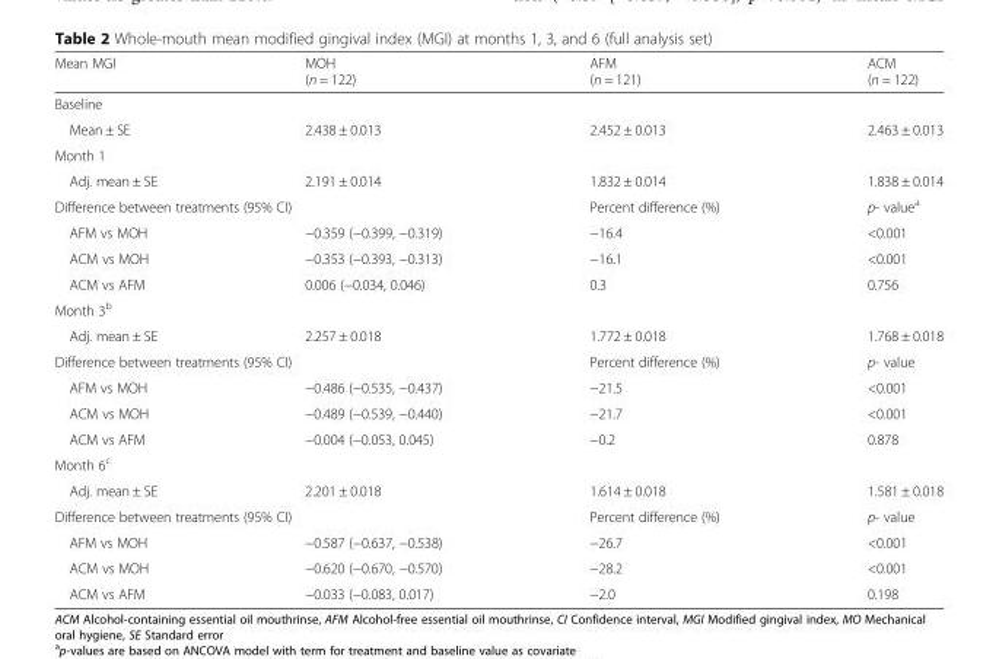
<table><thead><tr><td>Mean MGI</td><td>MOH (n = 122)</td><td>AFM (n = 121)</td><td>ACM (n = 122)</td></tr></thead><tbody><tr><td colspan="4">Baseline</td></tr><tr><td>Mean ± SE</td><td>2.438 ± 0.013</td><td>2.452 ± 0.013</td><td>2.463 ± 0.013</td></tr><tr><td colspan="4">Month 1</td></tr><tr><td>Adj. mean ± SE</td><td>2.191 ± 0.014</td><td>1.832 ± 0.014</td><td>1.838 ± 0.014</td></tr><tr><td colspan="2">Difference between treatments (95% CI)</td><td>Percent difference (%)</td><td>p- value<sup>a</sup></td></tr><tr><td>AFM vs MOH</td><td>−0.359 (−0.399, −0.319)</td><td>−16.4</td><td>&lt;0.001</td></tr><tr><td>ACM vs MOH</td><td>−0.353 (−0.393, −0.313)</td><td>−16.1</td><td>&lt;0.001</td></tr><tr><td>ACM vs AFM</td><td>0.006 (−0.034, 0.046)</td><td>0.3</td><td>0.756</td></tr><tr><td colspan="4">Month 3<sup>b</sup></td></tr><tr><td>Adj. mean ± SE</td><td>2.257 ± 0.018</td><td>1.772 ± 0.018</td><td>1.768 ± 0.018</td></tr><tr><td colspan="2">Difference between treatments (95% CI)</td><td>Percent difference (%)</td><td>p- value</td></tr><tr><td>AFM vs MOH</td><td>−0.486 (−0.535, −0.437)</td><td>−21.5</td><td>&lt;0.001</td></tr><tr><td>ACM vs MOH</td><td>−0.489 (−0.539, −0.440)</td><td>−21.7</td><td>&lt;0.001</td></tr><tr><td>ACM vs AFM</td><td>−0.004 (−0.053, 0.045)</td><td>−0.2</td><td>0.878</td></tr><tr><td colspan="4">Month 6<sup>c</sup></td></tr><tr><td>Adj. mean ± SE</td><td>2.201 ± 0.018</td><td>1.614 ± 0.018</td><td>1.581 ± 0.018</td></tr><tr><td colspan="2">Difference between treatments (95% CI)</td><td>Percent difference (%)</td><td>p- value</td></tr><tr><td>AFM vs MOH</td><td>−0.587 (−0.637, −0.538)</td><td>−26.7</td><td>&lt;0.001</td></tr><tr><td>ACM vs MOH</td><td>−0.620 (−0.670, −0.570)</td><td>−28.2</td><td>&lt;0.001</td></tr><tr><td>ACM vs AFM</td><td>−0.033 (−0.083, 0.017)</td><td>−2.0</td><td>0.198</td></tr></tbody></table>